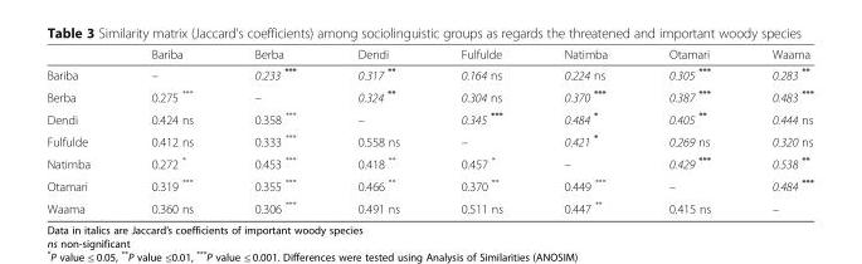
<table><thead><tr><td></td><td>Bariba</td><td>Berba</td><td>Dendi</td><td>Fulfulde</td><td>Natimba</td><td>Otamari</td><td>Waama</td></tr></thead><tbody><tr><td>Bariba</td><td>–</td><td>0.233 ***</td><td>0.317 **</td><td>0.164 ns</td><td>0.224 ns</td><td>0.305 ***</td><td>0.283 **</td></tr><tr><td>Berba</td><td>0.275 ***</td><td>–</td><td>0.324 **</td><td>0.304 ns</td><td>0.370 ***</td><td>0.387 ***</td><td>0.483 ***</td></tr><tr><td>Dendi</td><td>0.424 ns</td><td>0.358 ***</td><td>–</td><td>0.345 ***</td><td>0.484 *</td><td>0.405 **</td><td>0.444 ns</td></tr><tr><td>Fulfulde</td><td>0.412 ns</td><td>0.333 ***</td><td>0.558 ns</td><td>–</td><td>0.421 *</td><td>0.269 ns</td><td>0.320 ns</td></tr><tr><td>Natimba</td><td>0.272 *</td><td>0.453 ***</td><td>0.418 **</td><td>0.457 *</td><td>–</td><td>0.429 ***</td><td>0.538 **</td></tr><tr><td>Otamari</td><td>0.319 ***</td><td>0.355 ***</td><td>0.466 **</td><td>0.370 **</td><td>0.449 ***</td><td>–</td><td>0.484 ***</td></tr><tr><td>Waama</td><td>0.360 ns</td><td>0.306 ***</td><td>0.491 ns</td><td>0.511 ns</td><td>0.447 **</td><td>0.415 ns</td><td>–</td></tr></tbody></table>